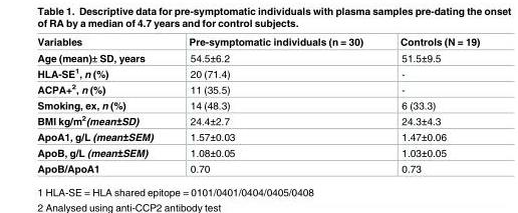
<table><thead><tr><td>Variables</td><td>Pre-symptomatic individuals (n = 30)</td><td>Controls (N = 19)</td></tr></thead><tbody><tr><td>Age (mean)± SD, years</td><td>54.5±6.2</td><td>51.5±9.5</td></tr><tr><td>HLA-SE<sup>1</sup>, n (%)</td><td>20 (71.4)</td><td>-</td></tr><tr><td>ACPA+<sup>2</sup>, n (%)</td><td>11 (35.5)</td><td>-</td></tr><tr><td>Smoking, ex, n (%)</td><td>14 (48.3)</td><td>6 (33.3)</td></tr><tr><td>BMI kg/m<sup>2</sup>(mean±SD)</td><td>24.4±2.7</td><td>24.3±4.3</td></tr><tr><td>ApoA1, g/L (mean±SEM)</td><td>1.57±0.03</td><td>1.47±0.06</td></tr><tr><td>ApoB, g/L (mean±SEM)</td><td>1.08±0.05</td><td>1.03±0.05</td></tr><tr><td>ApoB/ApoA1</td><td>0.70</td><td>0.73</td></tr></tbody></table>